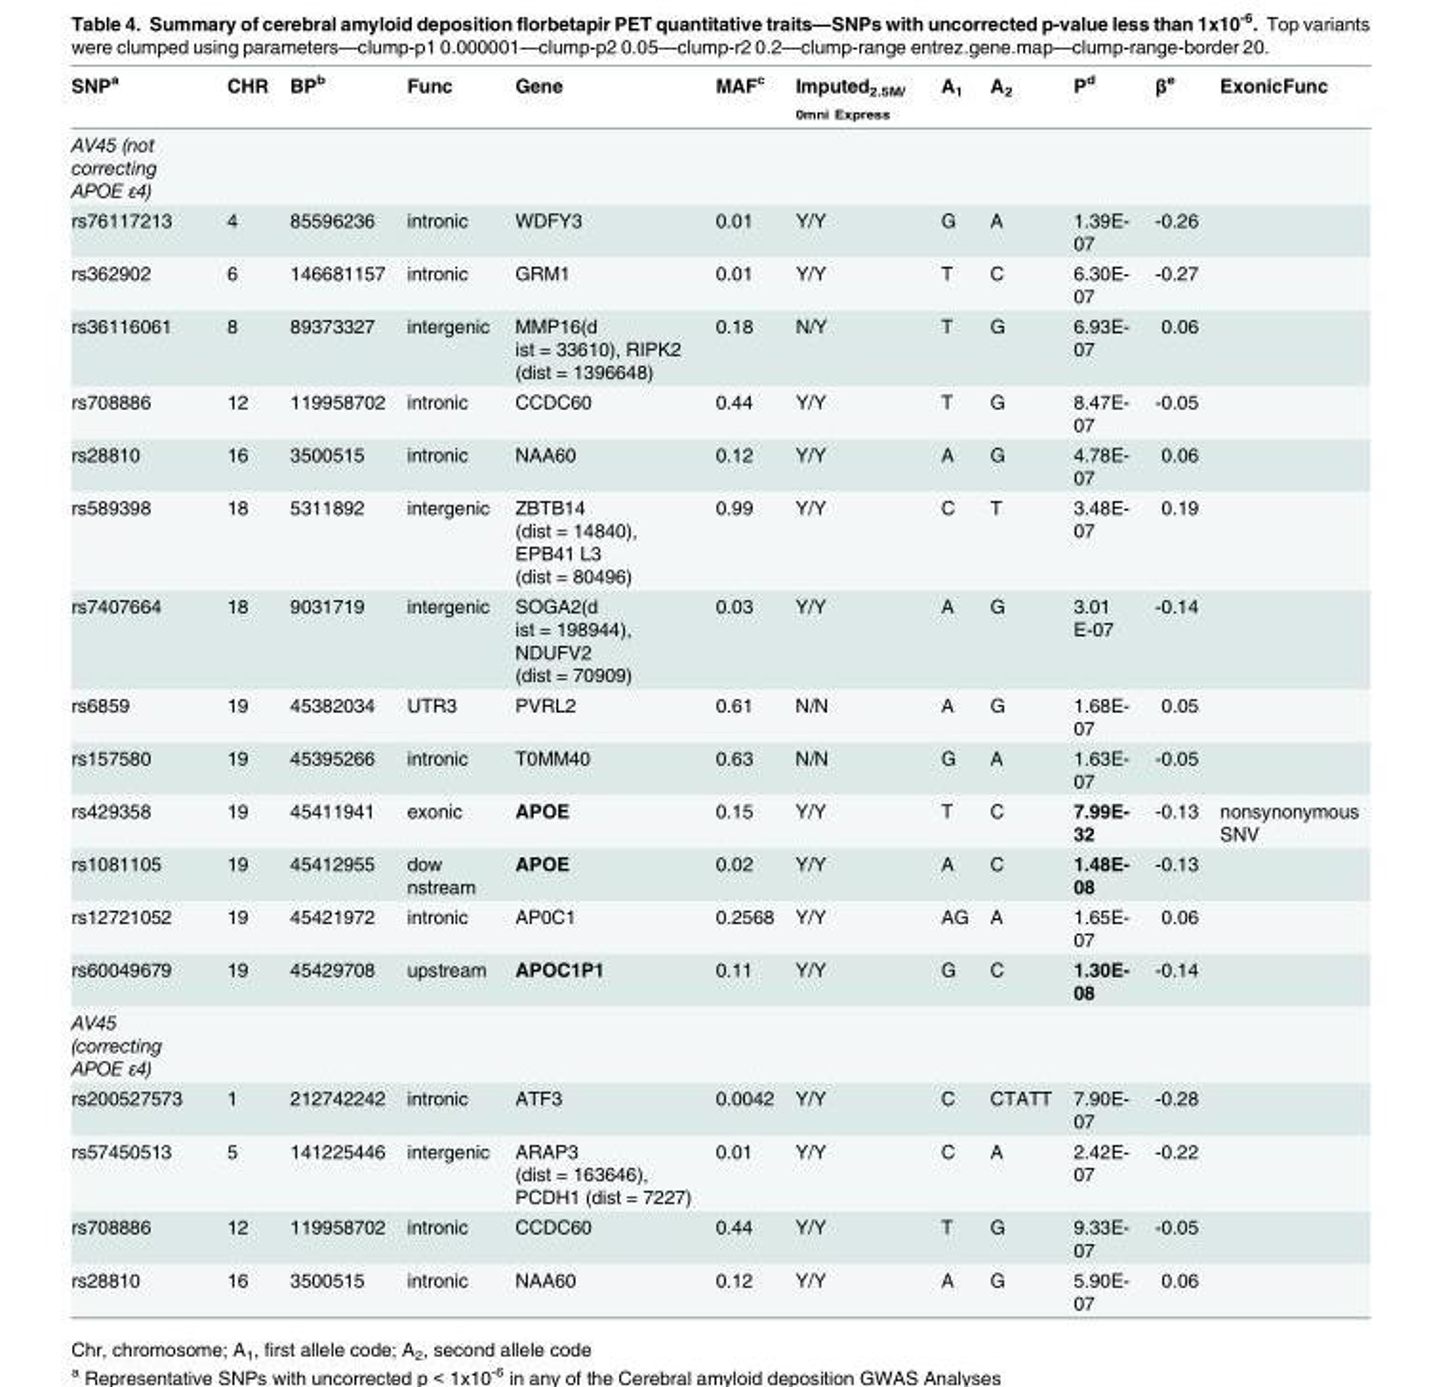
<table><thead><tr><td>SNP<sup>a</sup></td><td>CHR</td><td>BP<sup>b</sup></td><td>Func</td><td>Gene</td><td>MAF<sup>c</sup></td><td>Imputed<sub>2.5M/ 0mni Express</sub></td><td>A<sub>1</sub></td><td>A<sub>2</sub></td><td>P<sup>d</sup></td><td>β<sup>e</sup></td><td>ExonicFunc</td></tr></thead><tbody><tr><td colspan="12">AV45 (not correcting APOE ε4)</td></tr><tr><td>rs76117213</td><td>4</td><td>85596236</td><td>intronic</td><td>WDFY3</td><td>0.01</td><td>Y/Y</td><td>G</td><td>A</td><td>1.39E- 07</td><td>-0.26</td><td></td></tr><tr><td>rs362902</td><td>6</td><td>146681157</td><td>intronic</td><td>GRM1</td><td>0.01</td><td>Y/Y</td><td>T</td><td>C</td><td>6.30E- 07</td><td>-0.27</td><td></td></tr><tr><td>rs36116061</td><td>8</td><td>89373327</td><td>intergenic</td><td>MMP16(d ist = 33610), RIPK2 (dist = 1396648)</td><td>0.18</td><td>N/Y</td><td>T</td><td>G</td><td>6.93E- 07</td><td>0.06</td><td></td></tr><tr><td>rs708886</td><td>12</td><td>119958702</td><td>intronic</td><td>CCDC60</td><td>0.44</td><td>Y/Y</td><td>T</td><td>G</td><td>8.47E- 07</td><td>-0.05</td><td></td></tr><tr><td>rs28810</td><td>16</td><td>3500515</td><td>intronic</td><td>NAA60</td><td>0.12</td><td>Y/Y</td><td>A</td><td>G</td><td>4.78E- 07</td><td>0.06</td><td></td></tr><tr><td>rs589398</td><td>18</td><td>5311892</td><td>intergenic</td><td>ZBTB14 (dist = 14840), EPB41 L3 (dist = 80496)</td><td>0.99</td><td>Y/Y</td><td>C</td><td>T</td><td>3.48E- 07</td><td>0.19</td><td></td></tr><tr><td>rs7407664</td><td>18</td><td>9031719</td><td>intergenic</td><td>SOGA2(d ist = 198944), NDUFV2 (dist = 70909)</td><td>0.03</td><td>Y/Y</td><td>A</td><td>G</td><td>3.01 E-07</td><td>-0.14</td><td></td></tr><tr><td>rs6859</td><td>19</td><td>45382034</td><td>UTR3</td><td>PVRL2</td><td>0.61</td><td>N/N</td><td>A</td><td>G</td><td>1.68E- 07</td><td>0.05</td><td></td></tr><tr><td>rs157580</td><td>19</td><td>45395266</td><td>intronic</td><td>T0MM40</td><td>0.63</td><td>N/N</td><td>G</td><td>A</td><td>1.63E- 07</td><td>-0.05</td><td></td></tr><tr><td>rs429358</td><td>19</td><td>45411941</td><td>exonic</td><td>APOE</td><td>0.15</td><td>Y/Y</td><td>T</td><td>C</td><td>7.99E- 32</td><td>-0.13</td><td>nonsynonymous SNV</td></tr><tr><td>rs1081105</td><td>19</td><td>45412955</td><td>dow nstream</td><td>APOE</td><td>0.02</td><td>Y/Y</td><td>A</td><td>C</td><td>1.48E- 08</td><td>-0.13</td><td></td></tr><tr><td>rs12721052</td><td>19</td><td>45421972</td><td>intronic</td><td>AP0C1</td><td>0.2568</td><td>Y/Y</td><td>AG</td><td>A</td><td>1.65E- 07</td><td>0.06</td><td></td></tr><tr><td>rs60049679</td><td>19</td><td>45429708</td><td>upstream</td><td>APOC1P1</td><td>0.11</td><td>Y/Y</td><td>G</td><td>C</td><td>1.30E- 08</td><td>-0.14</td><td></td></tr><tr><td colspan="12">AV45 (correcting APOE ε4)</td></tr><tr><td>rs200527573</td><td>1</td><td>212742242</td><td>intronic</td><td>ATF3</td><td>0.0042</td><td>Y/Y</td><td>C</td><td>CTATT</td><td>7.90E- 07</td><td>-0.28</td><td></td></tr><tr><td>rs57450513</td><td>5</td><td>141225446</td><td>intergenic</td><td>ARAP3 (dist = 163646), PCDH1 (dist = 7227)</td><td>0.01</td><td>Y/Y</td><td>C</td><td>A</td><td>2.42E- 07</td><td>-0.22</td><td></td></tr><tr><td>rs708886</td><td>12</td><td>119958702</td><td>intronic</td><td>CCDC60</td><td>0.44</td><td>Y/Y</td><td>T</td><td>G</td><td>9.33E- 07</td><td>-0.05</td><td></td></tr><tr><td>rs28810</td><td>16</td><td>3500515</td><td>intronic</td><td>NAA60</td><td>0.12</td><td>Y/Y</td><td>A</td><td>G</td><td>5.90E- 07</td><td>0.06</td><td></td></tr></tbody></table>